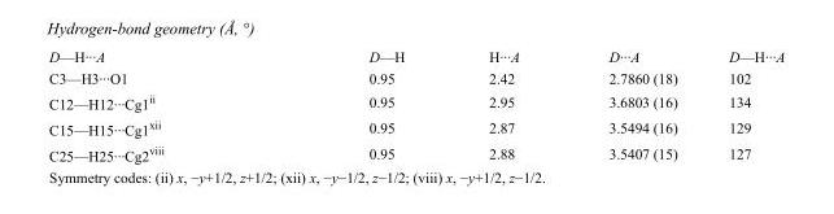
<table><tbody><tr><td>D—H···A</td><td>D—H</td><td>H···A</td><td>D···A</td><td>D—H···A</td></tr><tr><td>C3—H3···O1</td><td>0.95</td><td>2.42</td><td>2.7860 (18)</td><td>102</td></tr><tr><td>C12—H12···Cg1<sup>ii</sup></td><td>0.95</td><td>2.95</td><td>3.6803 (16)</td><td>134</td></tr><tr><td>C15—H15···Cg1<sup>xii</sup></td><td>0.95</td><td>2.87</td><td>3.5494 (16)</td><td>129</td></tr><tr><td>C25—H25···Cg2<sup>viii</sup></td><td>0.95</td><td>2.88</td><td>3.5407 (15)</td><td>127</td></tr></tbody></table>